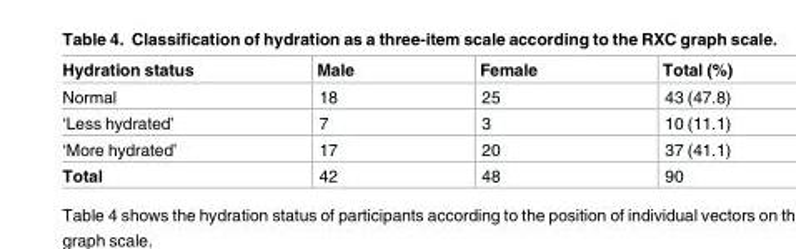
<table><thead><tr><td>Hydration status</td><td>Male</td><td>Female</td><td>Total (%)</td></tr></thead><tbody><tr><td>Normal</td><td>18</td><td>25</td><td>43 (47.8)</td></tr><tr><td>‘Less hydrated’</td><td>7</td><td>3</td><td>10 (11.1)</td></tr><tr><td>‘More hydrated’</td><td>17</td><td>20</td><td>37 (41.1)</td></tr><tr><td>Total</td><td>42</td><td>48</td><td>90</td></tr></tbody></table>